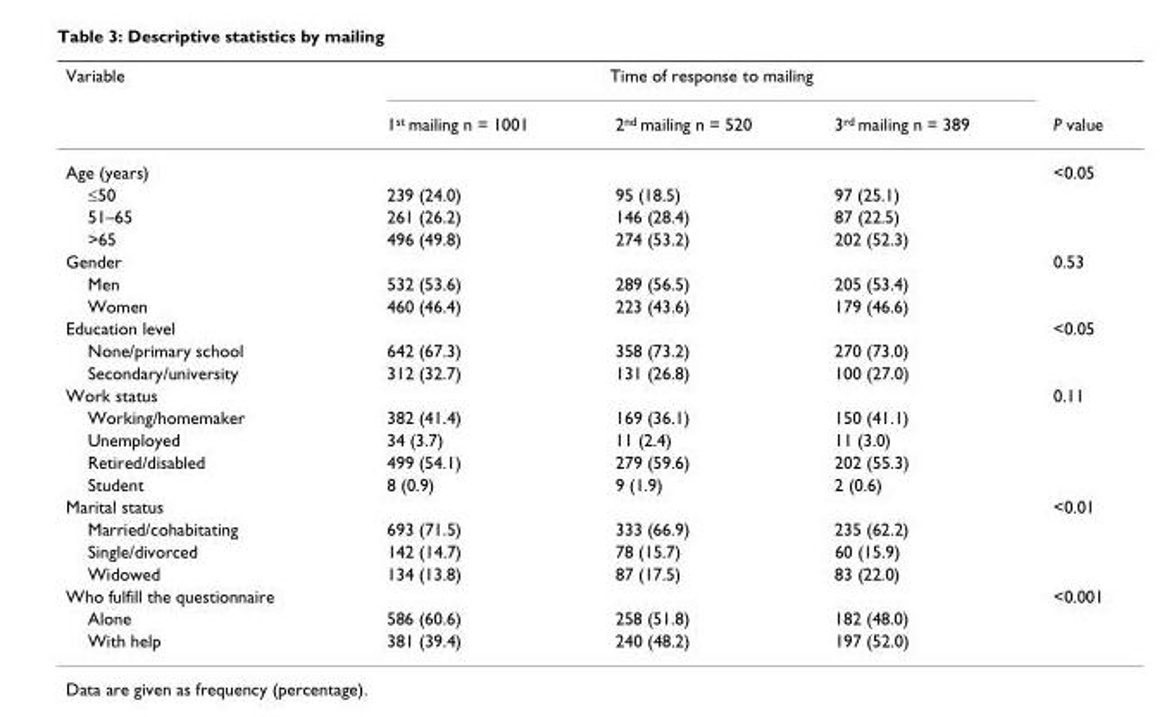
<table><thead><tr><td rowspan="2">Variable</td><td colspan="3">Time of response to mailing</td><td rowspan="2">P value</td></tr><tr><td>1st mailing n = 1001</td><td>2nd mailing n = 520</td><td>3rd mailing n = 389</td></tr></thead><tbody><tr><td>Age (years)</td><td></td><td></td><td></td><td>&lt;0.05</td></tr><tr><td>≤50</td><td>239 (24.0)</td><td>95 (18.5)</td><td>97 (25.1)</td><td></td></tr><tr><td>51–65</td><td>261 (26.2)</td><td>146 (28.4)</td><td>87 (22.5)</td><td></td></tr><tr><td>&gt;65</td><td>496 (49.8)</td><td>274 (53.2)</td><td>202 (52.3)</td><td></td></tr><tr><td>Gender</td><td></td><td></td><td></td><td>0.53</td></tr><tr><td>Men</td><td>532 (53.6)</td><td>289 (56.5)</td><td>205 (53.4)</td><td></td></tr><tr><td>Women</td><td>460 (46.4)</td><td>223 (43.6)</td><td>179 (46.6)</td><td></td></tr><tr><td>Education level</td><td></td><td></td><td></td><td>&lt;0.05</td></tr><tr><td>None/primary school</td><td>642 (67.3)</td><td>358 (73.2)</td><td>270 (73.0)</td><td></td></tr><tr><td>Secondary/university</td><td>312 (32.7)</td><td>131 (26.8)</td><td>100 (27.0)</td><td></td></tr><tr><td>Work status</td><td></td><td></td><td></td><td>0.11</td></tr><tr><td>Working/homemaker</td><td>382 (41.4)</td><td>169 (36.1)</td><td>150 (41.1)</td><td></td></tr><tr><td>Unemployed</td><td>34 (3.7)</td><td>11 (2.4)</td><td>11 (3.0)</td><td></td></tr><tr><td>Retired/disabled</td><td>499 (54.1)</td><td>279 (59.6)</td><td>202 (55.3)</td><td></td></tr><tr><td>Student</td><td>8 (0.9)</td><td>9 (1.9)</td><td>2 (0.6)</td><td></td></tr><tr><td>Marital status</td><td></td><td></td><td></td><td>&lt;0.01</td></tr><tr><td>Married/cohabitating</td><td>693 (71.5)</td><td>333 (66.9)</td><td>235 (62.2)</td><td></td></tr><tr><td>Single/divorced</td><td>142 (14.7)</td><td>78 (15.7)</td><td>60 (15.9)</td><td></td></tr><tr><td>Widowed</td><td>134 (13.8)</td><td>87 (17.5)</td><td>83 (22.0)</td><td></td></tr><tr><td>Who fulfill the questionnaire</td><td></td><td></td><td></td><td>&lt;0.001</td></tr><tr><td>Alone</td><td>586 (60.6)</td><td>258 (51.8)</td><td>182 (48.0)</td><td></td></tr><tr><td>With help</td><td>381 (39.4)</td><td>240 (48.2)</td><td>197 (52.0)</td><td></td></tr></tbody></table>